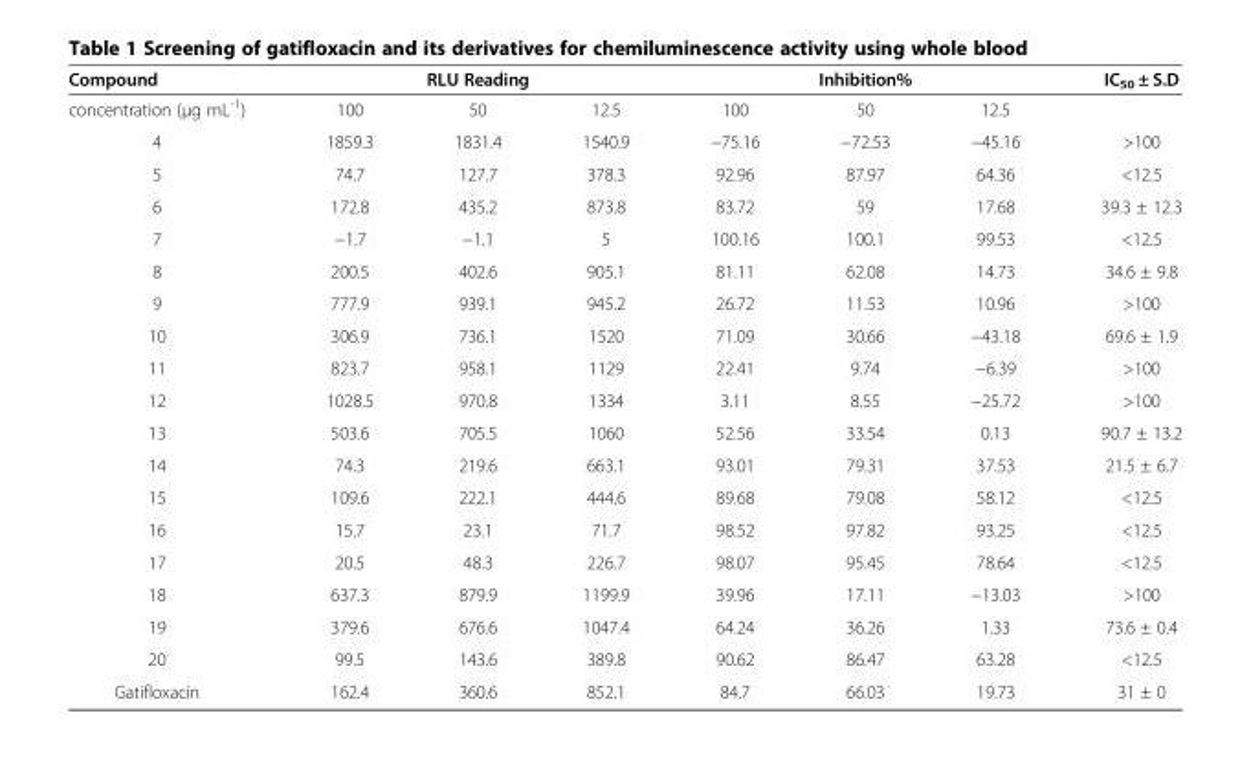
<table><thead><tr><td rowspan="2">Compound concentration (μg mL<sup>-1</sup>)</td><td colspan="3">RLU Reading</td><td colspan="3">Inhibition%</td><td rowspan="2">IC<sub>50</sub> ± S.D</td></tr><tr><td>100</td><td>50</td><td>12.5</td><td>100</td><td>50</td><td>12.5</td></tr></thead><tbody><tr><td>4</td><td>1859.3</td><td>1831.4</td><td>1540.9</td><td>−75.16</td><td>−72.53</td><td>−45.16</td><td>&gt;100</td></tr><tr><td>5</td><td>74.7</td><td>127.7</td><td>378.3</td><td>92.96</td><td>87.97</td><td>64.36</td><td>&lt;12.5</td></tr><tr><td>6</td><td>172.8</td><td>435.2</td><td>873.8</td><td>83.72</td><td>59</td><td>17.68</td><td>39.3 ± 12.3</td></tr><tr><td>7</td><td>−1.7</td><td>−1.1</td><td>5</td><td>100.16</td><td>100.1</td><td>99.53</td><td>&lt;12.5</td></tr><tr><td>8</td><td>200.5</td><td>402.6</td><td>905.1</td><td>81.11</td><td>62.08</td><td>14.73</td><td>34.6 ± 9.8</td></tr><tr><td>9</td><td>777.9</td><td>939.1</td><td>945.2</td><td>26.72</td><td>11.53</td><td>10.96</td><td>&gt;100</td></tr><tr><td>10</td><td>306.9</td><td>736.1</td><td>1520</td><td>71.09</td><td>30.66</td><td>−43.18</td><td>69.6 ± 1.9</td></tr><tr><td>11</td><td>823.7</td><td>958.1</td><td>1129</td><td>22.41</td><td>9.74</td><td>−6.39</td><td>&gt;100</td></tr><tr><td>12</td><td>1028.5</td><td>970.8</td><td>1334</td><td>3.11</td><td>8.55</td><td>−25.72</td><td>&gt;100</td></tr><tr><td>13</td><td>503.6</td><td>705.5</td><td>1060</td><td>52.56</td><td>33.54</td><td>0.13</td><td>90.7 ± 13.2</td></tr><tr><td>14</td><td>74.3</td><td>219.6</td><td>663.1</td><td>93.01</td><td>79.31</td><td>37.53</td><td>21.5 ± 6.7</td></tr><tr><td>15</td><td>109.6</td><td>222.1</td><td>444.6</td><td>89.68</td><td>79.08</td><td>58.12</td><td>&lt;12.5</td></tr><tr><td>16</td><td>15.7</td><td>23.1</td><td>71.7</td><td>98.52</td><td>97.82</td><td>93.25</td><td>&lt;12.5</td></tr><tr><td>17</td><td>20.5</td><td>48.3</td><td>226.7</td><td>98.07</td><td>95.45</td><td>78.64</td><td>&lt;12.5</td></tr><tr><td>18</td><td>637.3</td><td>879.9</td><td>1199.9</td><td>39.96</td><td>17.11</td><td>−13.03</td><td>&gt;100</td></tr><tr><td>19</td><td>379.6</td><td>676.6</td><td>1047.4</td><td>64.24</td><td>36.26</td><td>1.33</td><td>73.6 ± 0.4</td></tr><tr><td>20</td><td>99.5</td><td>143.6</td><td>389.8</td><td>90.62</td><td>86.47</td><td>63.28</td><td>&lt;12.5</td></tr><tr><td>Gatifloxacin</td><td>162.4</td><td>360.6</td><td>852.1</td><td>84.7</td><td>66.03</td><td>19.73</td><td>31 ± 0</td></tr></tbody></table>